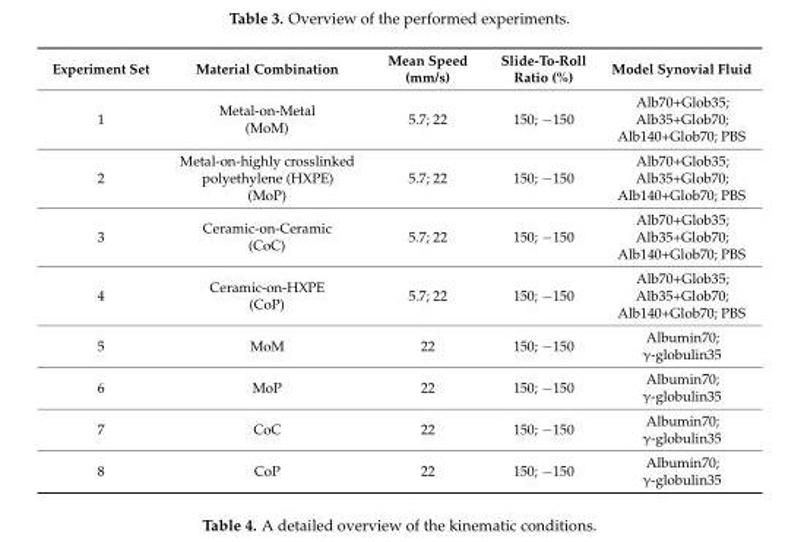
<table><thead><tr><td>Experiment Set</td><td>Material Combination</td><td>Mean Speed (mm/s)</td><td>Slide-To-Roll Ratio (%)</td><td>Model Synovial Fluid</td></tr></thead><tbody><tr><td>1</td><td>Metal-on-Metal (MoM)</td><td>5.7; 22</td><td>150; −150</td><td>Alb70+Glob35; Alb35+Glob70; Alb140+Glob70; PBS</td></tr><tr><td>2</td><td>Metal-on-highly crosslinked polyethylene (HXPE) (MoP)</td><td>5.7; 22</td><td>150; −150</td><td>Alb70+Glob35; Alb35+Glob70; Alb140+Glob70; PBS</td></tr><tr><td>3</td><td>Ceramic-on-Ceramic (CoC)</td><td>5.7; 22</td><td>150; −150</td><td>Alb70+Glob35; Alb35+Glob70; Alb140+Glob70; PBS</td></tr><tr><td>4</td><td>Ceramic-on-HXPE (CoP)</td><td>5.7; 22</td><td>150; −150</td><td>Alb70+Glob35; Alb35+Glob70; Alb140+Glob70; PBS</td></tr><tr><td>5</td><td>MoM</td><td>22</td><td>150; −150</td><td>Albumin70; γ-globulin35</td></tr><tr><td>6</td><td>MoP</td><td>22</td><td>150; −150</td><td>Albumin70; γ-globulin35</td></tr><tr><td>7</td><td>CoC</td><td>22</td><td>150; −150</td><td>Albumin70; γ-globulin35</td></tr><tr><td>8</td><td>CoP</td><td>22</td><td>150; −150</td><td>Albumin70; γ-globulin35</td></tr></tbody></table>